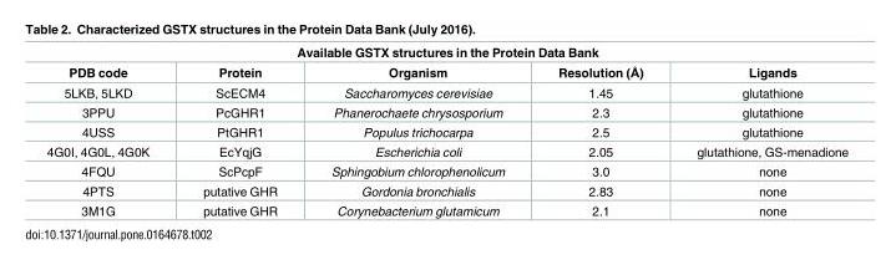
<table><thead><tr><td colspan="5">Available GSTX structures in the Protein Data Bank</td></tr><tr><td>PDB code</td><td>Protein</td><td>Organism</td><td>Resolution (Å)</td><td>Ligands</td></tr></thead><tbody><tr><td>5LKB, 5LKD</td><td>ScECM4</td><td>Saccharomyces cerevisiae</td><td>1.45</td><td>glutathione</td></tr><tr><td>3PPU</td><td>PcGHR1</td><td>Phanerochaete chrysosporium</td><td>2.3</td><td>glutathione</td></tr><tr><td>4USS</td><td>PtGHR1</td><td>Populus trichocarpa</td><td>2.5</td><td>glutathione</td></tr><tr><td>4G0I, 4G0L, 4G0K</td><td>EcYqjG</td><td>Escherichia coli</td><td>2.05</td><td>glutathione, GS-menadione</td></tr><tr><td>4FQU</td><td>ScPcpF</td><td>Sphingobium chlorophenolicum</td><td>3.0</td><td>none</td></tr><tr><td>4PTS</td><td>putative GHR</td><td>Gordonia bronchialis</td><td>2.83</td><td>none</td></tr><tr><td>3M1G</td><td>putative GHR</td><td>Corynebacterium glutamicum</td><td>2.1</td><td>none</td></tr></tbody></table>